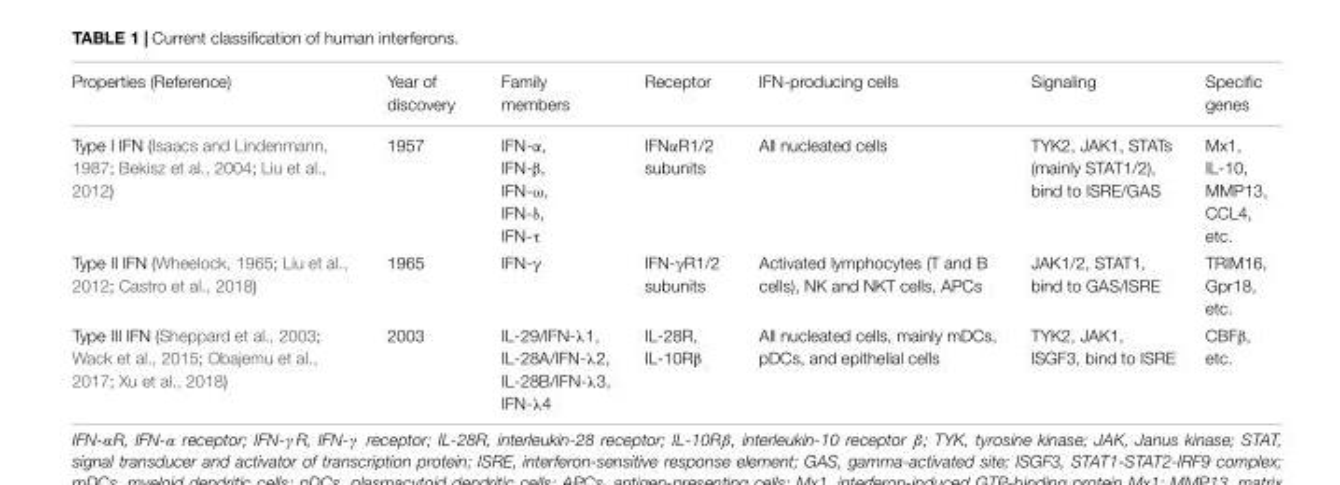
<table><thead><tr><td>Properties (Reference)</td><td>Year of discovery</td><td>Family members</td><td>Receptor</td><td>IFN-producing cells</td><td>Signaling</td><td>Specific genes</td></tr></thead><tbody><tr><td>Type I IFN (Isaacs and Lindenmann, 1987; Bekisz et al., 2004; Liu et al., 2012)</td><td>1957</td><td>IFN-α, IFN-β, IFN-ω, IFN-δ, IFN-τ</td><td>IFNαR1/2 subunits</td><td>All nucleated cells</td><td>TYK2, JAK1, STATs (mainly STAT1/2), bind to ISRE/GAS</td><td>Mx1, IL-10, MMP13, CCL4, etc.</td></tr><tr><td>Type II IFN (Wheelock, 1965; Liu et al., 2012; Castro et al., 2018)</td><td>1965</td><td>IFN-γ</td><td>IFN-γR1/2 subunits</td><td>Activated lymphocytes (T and B cells), NK and NKT cells, APCs</td><td>JAK1/2, STAT1, bind to GAS/ISRE</td><td>TRIM16, Gpr18, etc.</td></tr><tr><td>Type III IFN (Sheppard et al., 2003; Wack et al., 2015; Obajemu et al., 2017; Xu et al., 2018)</td><td>2003</td><td>IL-29/IFN-λ1, IL-28A/IFN-λ2, IL-28B/IFN-λ3, IFN-λ4</td><td>IL-28R, IL-10Rβ</td><td>All nucleated cells, mainly mDCs, pDCs, and epithelial cells</td><td>TYK2, JAK1, ISGF3, bind to ISRE</td><td>CBFβ, etc.</td></tr></tbody></table>